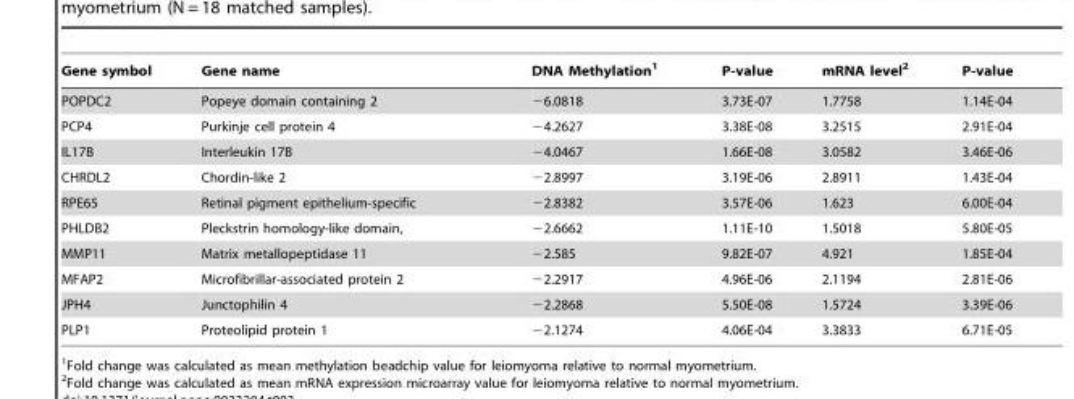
<table><thead><tr><td>Gene symbol</td><td>Gene name</td><td>DNA Methylation<sup>1</sup></td><td>P-value</td><td>mRNA level<sup>2</sup></td><td>P-value</td></tr></thead><tbody><tr><td>POPDC2</td><td>Popeye domain containing 2</td><td>−6.0818</td><td>3.73E-07</td><td>1.7758</td><td>1.14E-04</td></tr><tr><td>PCP4</td><td>Purkinje cell protein 4</td><td>−4.2627</td><td>3.38E-08</td><td>3.2515</td><td>2.91E-04</td></tr><tr><td>IL17B</td><td>Interleukin 17B</td><td>−4.0467</td><td>1.66E-08</td><td>3.0582</td><td>3.46E-06</td></tr><tr><td>CHRDL2</td><td>Chordin-like 2</td><td>−2.8997</td><td>3.19E-06</td><td>2.8911</td><td>1.43E-04</td></tr><tr><td>RPE65</td><td>Retinal pigment epithelium-specific</td><td>−2.8382</td><td>3.57E-06</td><td>1.623</td><td>6.00E-04</td></tr><tr><td>PHLDB2</td><td>Pleckstrin homology-like domain,</td><td>−2.6662</td><td>1.11E-10</td><td>1.5018</td><td>5.80E-05</td></tr><tr><td>MMP11</td><td>Matrix metallopeptidase 11</td><td>−2.585</td><td>9.82E-07</td><td>4.921</td><td>1.85E-04</td></tr><tr><td>MFAP2</td><td>Microfibrillar-associated protein 2</td><td>−2.2917</td><td>4.96E-06</td><td>2.1194</td><td>2.81E-06</td></tr><tr><td>JPH4</td><td>Junctophilin 4</td><td>−2.2868</td><td>5.50E-08</td><td>1.5724</td><td>3.39E-06</td></tr><tr><td>PLP1</td><td>Proteolipid protein 1</td><td>−2.1274</td><td>4.06E-04</td><td>3.3833</td><td>6.71E-05</td></tr></tbody></table>